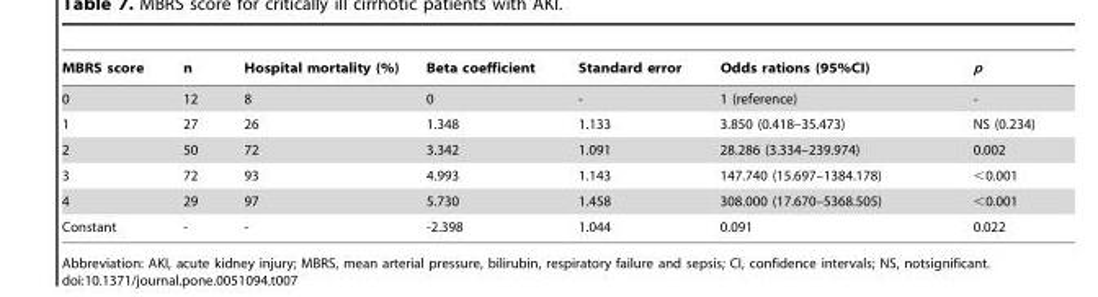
<table><thead><tr><td>MBRS score</td><td>n</td><td>Hospital mortality (%)</td><td>Beta coefficient</td><td>Standard error</td><td>Odds rations (95%CI)</td><td>p</td></tr></thead><tbody><tr><td>0</td><td>12</td><td>8</td><td>0</td><td>-</td><td>1 (reference)</td><td>-</td></tr><tr><td>1</td><td>27</td><td>26</td><td>1.348</td><td>1.133</td><td>3.850 (0.418–35.473)</td><td>NS (0.234)</td></tr><tr><td>2</td><td>50</td><td>72</td><td>3.342</td><td>1.091</td><td>28.286 (3.334–239.974)</td><td>0.002</td></tr><tr><td>3</td><td>72</td><td>93</td><td>4.993</td><td>1.143</td><td>147.740 (15.697–1384.178)</td><td>&lt;0.001</td></tr><tr><td>4</td><td>29</td><td>97</td><td>5.730</td><td>1.458</td><td>308.000 (17.670–5368.505)</td><td>&lt;0.001</td></tr><tr><td>Constant</td><td>-</td><td>-</td><td>-2.398</td><td>1.044</td><td>0.091</td><td>0.022</td></tr></tbody></table>